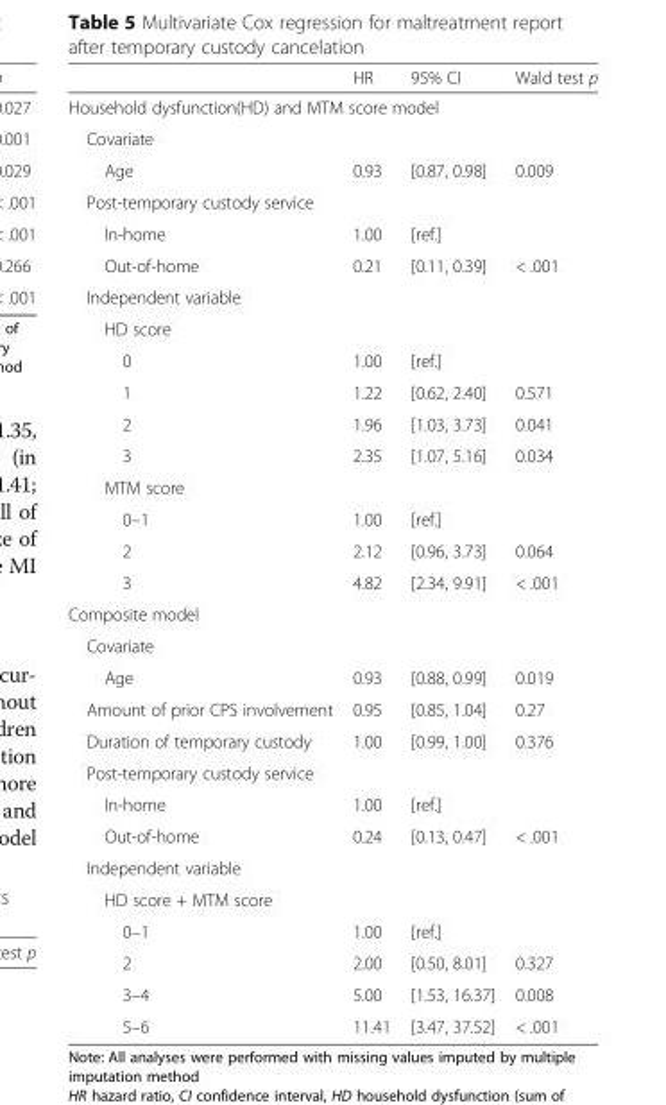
<table><thead><tr><td></td><td>HR</td><td>95% CI</td><td>Wald test p</td></tr></thead><tbody><tr><td colspan="4">Household dysfunction(HD) and MTM score model</td></tr><tr><td colspan="4">Covariate</td></tr><tr><td>Age</td><td>0.93</td><td>[0.87, 0.98]</td><td>0.009</td></tr><tr><td colspan="4">Post-temporary custody service</td></tr><tr><td>In-home</td><td>1.00</td><td>[ref.]</td><td></td></tr><tr><td>Out-of-home</td><td>0.21</td><td>[0.11, 0.39]</td><td>&lt; .001</td></tr><tr><td colspan="4">Independent variable</td></tr><tr><td colspan="4">HD score</td></tr><tr><td>0</td><td>1.00</td><td>[ref.]</td><td></td></tr><tr><td>1</td><td>1.22</td><td>[0.62, 2.40]</td><td>0.571</td></tr><tr><td>2</td><td>1.96</td><td>[1.03, 3.73]</td><td>0.041</td></tr><tr><td>3</td><td>2.35</td><td>[1.07, 5.16]</td><td>0.034</td></tr><tr><td colspan="4">MTM score</td></tr><tr><td>0–1</td><td>1.00</td><td>[ref.]</td><td></td></tr><tr><td>2</td><td>2.12</td><td>[0.96, 3.73]</td><td>0.064</td></tr><tr><td>3</td><td>4.82</td><td>[2.34, 9.91]</td><td>&lt; .001</td></tr><tr><td colspan="4">Composite model</td></tr><tr><td colspan="4">Covariate</td></tr><tr><td>Age</td><td>0.93</td><td>[0.88, 0.99]</td><td>0.019</td></tr><tr><td>Amount of prior CPS involvement</td><td>0.95</td><td>[0.85, 1.04]</td><td>0.27</td></tr><tr><td>Duration of temporary custody</td><td>1.00</td><td>[0.99, 1.00]</td><td>0.376</td></tr><tr><td colspan="4">Post-temporary custody service</td></tr><tr><td>In-home</td><td>1.00</td><td>[ref.]</td><td></td></tr><tr><td>Out-of-home</td><td>0.24</td><td>[0.13, 0.47]</td><td>&lt; .001</td></tr><tr><td colspan="4">Independent variable</td></tr><tr><td colspan="4">HD score + MTM score</td></tr><tr><td>0–1</td><td>1.00</td><td>[ref.]</td><td></td></tr><tr><td>2</td><td>2.00</td><td>[0.50, 8.01]</td><td>0.327</td></tr><tr><td>3–4</td><td>5.00</td><td>[1.53, 16.37]</td><td>0.008</td></tr><tr><td>5–6</td><td>11.41</td><td>[3.47, 37.52]</td><td>&lt; .001</td></tr></tbody></table>